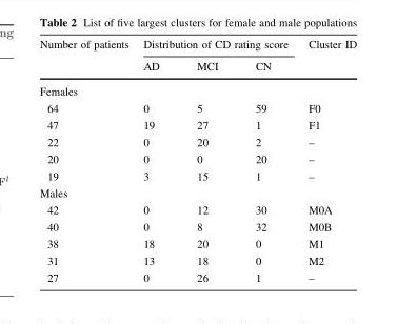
<table><thead><tr><td rowspan="2">Number of patients</td><td colspan="3">Distribution of CD rating score</td><td rowspan="2">Cluster ID</td></tr><tr><td>AD</td><td>MCI</td><td>CN</td></tr></thead><tbody><tr><td colspan="5">Females</td></tr><tr><td>64</td><td>0</td><td>5</td><td>59</td><td>F0</td></tr><tr><td>47</td><td>19</td><td>27</td><td>1</td><td>F1</td></tr><tr><td>22</td><td>0</td><td>20</td><td>2</td><td>–</td></tr><tr><td>20</td><td>0</td><td>0</td><td>20</td><td>–</td></tr><tr><td>19</td><td>3</td><td>15</td><td>1</td><td>–</td></tr><tr><td colspan="5">Males</td></tr><tr><td>42</td><td>0</td><td>12</td><td>30</td><td>M0A</td></tr><tr><td>40</td><td>0</td><td>8</td><td>32</td><td>M0B</td></tr><tr><td>38</td><td>18</td><td>20</td><td>0</td><td>M1</td></tr><tr><td>31</td><td>13</td><td>18</td><td>0</td><td>M2</td></tr><tr><td>27</td><td>0</td><td>26</td><td>1</td><td>–</td></tr></tbody></table>